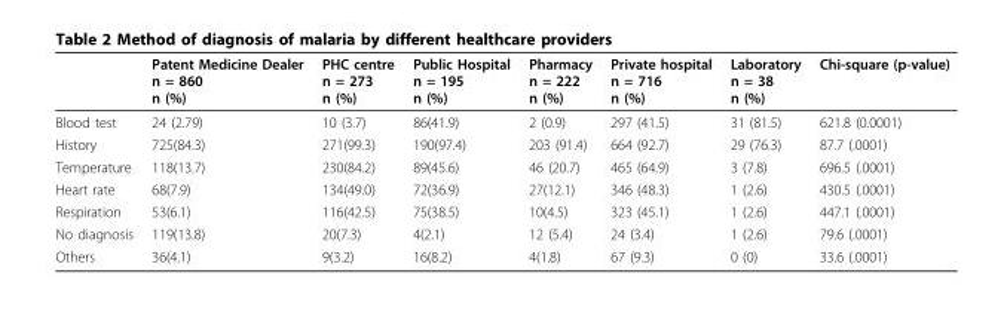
<table><thead><tr><td></td><td>Patent Medicine Dealer n = 860 n (%)</td><td>PHC centre n = 273 n (%)</td><td>Public Hospital n = 195 n (%)</td><td>Pharmacy n = 222 n (%)</td><td>Private hospital n = 716 n (%)</td><td>Laboratory n = 38 n (%)</td><td>Chi-square (p-value)</td></tr></thead><tbody><tr><td>Blood test</td><td>24 (2.79)</td><td>10 (3.7)</td><td>86(41.9)</td><td>2 (0.9)</td><td>297 (41.5)</td><td>31 (81.5)</td><td>621.8 (0.0001)</td></tr><tr><td>History</td><td>725(84.3)</td><td>271(99.3)</td><td>190(97.4)</td><td>203 (91.4)</td><td>664 (92.7)</td><td>29 (76.3)</td><td>87.7 (.0001)</td></tr><tr><td>Temperature</td><td>118(13.7)</td><td>230(84.2)</td><td>89(45.6)</td><td>46 (20.7)</td><td>465 (64.9)</td><td>3 (7.8)</td><td>696.5 (.0001)</td></tr><tr><td>Heart rate</td><td>68(7.9)</td><td>134(49.0)</td><td>72(36.9)</td><td>27(12.1)</td><td>346 (48.3)</td><td>1 (2.6)</td><td>430.5 (.0001)</td></tr><tr><td>Respiration</td><td>53(6.1)</td><td>116(42.5)</td><td>75(38.5)</td><td>10(4.5)</td><td>323 (45.1)</td><td>1 (2.6)</td><td>447.1 (.0001)</td></tr><tr><td>No diagnosis</td><td>119(13.8)</td><td>20(7.3)</td><td>4(2.1)</td><td>12 (5.4)</td><td>24 (3.4)</td><td>1 (2.6)</td><td>79.6 (.0001)</td></tr><tr><td>Others</td><td>36(4.1)</td><td>9(3.2)</td><td>16(8.2)</td><td>4(1.8)</td><td>67 (9.3)</td><td>0 (0)</td><td>33.6 (.0001)</td></tr></tbody></table>